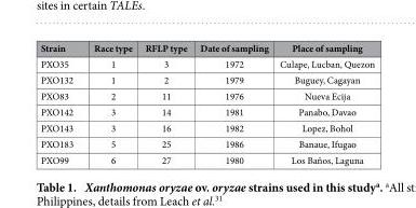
<table><thead><tr><td>Strain</td><td>Race type</td><td>RFLP type</td><td>Date of sampling</td><td>Place of sampling</td></tr></thead><tbody><tr><td>PXO35</td><td>1</td><td>3</td><td>1972</td><td>Culape, Lucban, Quezon</td></tr><tr><td>PXO132</td><td>1</td><td>2</td><td>1979</td><td>Buguey, Cagayan</td></tr><tr><td>PXO83</td><td>2</td><td>11</td><td>1976</td><td>Nueva Ecija</td></tr><tr><td>PXO142</td><td>3</td><td>14</td><td>1981</td><td>Panabo, Davao</td></tr><tr><td>PXO143</td><td>3</td><td>16</td><td>1982</td><td>Lopez, Bohol</td></tr><tr><td>PXO183</td><td>5</td><td>25</td><td>1986</td><td>Banaue, Ifugao</td></tr><tr><td>PXO99</td><td>6</td><td>27</td><td>1980</td><td>Los Baños, Laguna</td></tr></tbody></table>